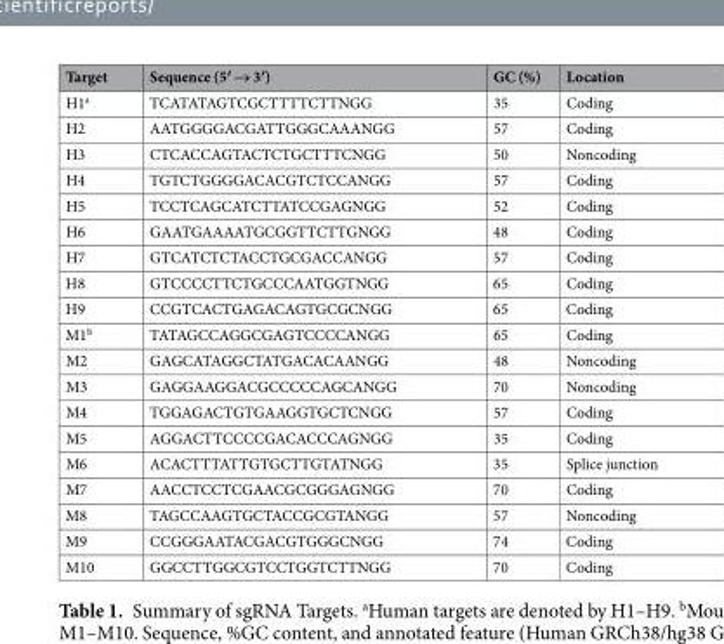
<table><thead><tr><td>Target</td><td>Sequence (5′ → 3′)</td><td>GC (%)</td><td>Location</td></tr></thead><tbody><tr><td>H1<sup>a</sup></td><td>TCATATAGTCGCTTTTCTTNGG</td><td>35</td><td>Coding</td></tr><tr><td>H2</td><td>AATGGGGACGATTGGGCAAANGG</td><td>57</td><td>Coding</td></tr><tr><td>H3</td><td>CTCACCAGTACTCTGCTTTCNGG</td><td>50</td><td>Noncoding</td></tr><tr><td>H4</td><td>TGTCTGGGGACACGTCTCCANGG</td><td>57</td><td>Coding</td></tr><tr><td>H5</td><td>TCCTCAGCATCTTATCCGAGNGG</td><td>52</td><td>Coding</td></tr><tr><td>H6</td><td>GAATGAAAATGCGGTTCTTGNGG</td><td>48</td><td>Coding</td></tr><tr><td>H7</td><td>GTCATCTCTACCTGCGACCANGG</td><td>57</td><td>Coding</td></tr><tr><td>H8</td><td>GTCCCCTTCTGCCCAATGGTNGG</td><td>65</td><td>Coding</td></tr><tr><td>H9</td><td>CCGTCACTGAGACAGTGCGCNGG</td><td>65</td><td>Coding</td></tr><tr><td>M1<sup>b</sup></td><td>TATAGCCAGGCGAGTCCCCANGG</td><td>65</td><td>Coding</td></tr><tr><td>M2</td><td>GAGCATAGGCTATGACACAANGG</td><td>48</td><td>Noncoding</td></tr><tr><td>M3</td><td>GAGGAAGGACGCCCCCAGCANGG</td><td>70</td><td>Noncoding</td></tr><tr><td>M4</td><td>TGGAGACTGTGAAGGTGCTCNGG</td><td>57</td><td>Coding</td></tr><tr><td>M5</td><td>AGGACTTCCCCGACACCCAGNGG</td><td>35</td><td>Coding</td></tr><tr><td>M6</td><td>ACACTTTATTGTGCTTGTATNGG</td><td>35</td><td>Splice junction</td></tr><tr><td>M7</td><td>AACCTCCTCGAACGCGGGAGNGG</td><td>70</td><td>Coding</td></tr><tr><td>M8</td><td>TAGCCAAGTGCTACCGCGTANGG</td><td>57</td><td>Noncoding</td></tr><tr><td>M9</td><td>CCGGGAATACGACGTGGGCNGG</td><td>74</td><td>Coding</td></tr><tr><td>M10</td><td>GGCCTTGGCGTCCTGGTCTTNGG</td><td>70</td><td>Coding</td></tr></tbody></table>